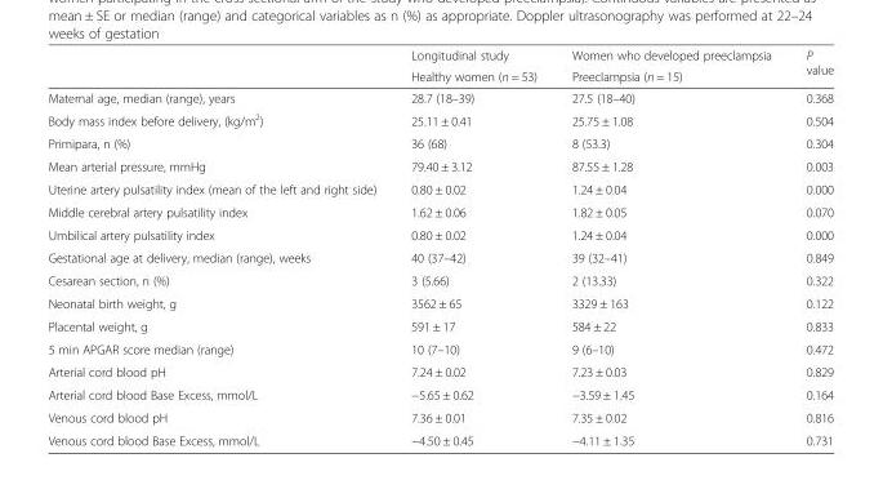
<table><thead><tr><td rowspan="2"></td><td rowspan="2">Longitudinal study Healthy women (n = 53)</td><td rowspan="2">Women who developed preeclampsia Preeclampsia (n = 15)</td><td rowspan="2">P value</td></tr><tr></tr></thead><tbody><tr><td>Maternal age, median (range), years</td><td>28.7 (18–39)</td><td>27.5 (18–40)</td><td>0.368</td></tr><tr><td>Body mass index before delivery, (kg/m<sup>2</sup>)</td><td>25.11 ± 0.41</td><td>25.75 ± 1.08</td><td>0.504</td></tr><tr><td>Primipara, n (%)</td><td>36 (68)</td><td>8 (53.3)</td><td>0.304</td></tr><tr><td>Mean arterial pressure, mmHg</td><td>79.40 ± 3.12</td><td>87.55 ± 1.28</td><td>0.003</td></tr><tr><td>Uterine artery pulsatility index (mean of the left and right side)</td><td>0.80 ± 0.02</td><td>1.24 ± 0.04</td><td>0.000</td></tr><tr><td>Middle cerebral artery pulsatility index</td><td>1.62 ± 0.06</td><td>1.82 ± 0.05</td><td>0.070</td></tr><tr><td>Umbilical artery pulsatility index</td><td>0.80 ± 0.02</td><td>1.24 ± 0.04</td><td>0.000</td></tr><tr><td>Gestational age at delivery, median (range), weeks</td><td>40 (37–42)</td><td>39 (32–41)</td><td>0.849</td></tr><tr><td>Cesarean section, n (%)</td><td>3 (5.66)</td><td>2 (13.33)</td><td>0.322</td></tr><tr><td>Neonatal birth weight, g</td><td>3562 ± 65</td><td>3329 ± 163</td><td>0.122</td></tr><tr><td>Placental weight, g</td><td>591 ± 17</td><td>584 ± 22</td><td>0.833</td></tr><tr><td>5 min APGAR score median (range)</td><td>10 (7–10)</td><td>9 (6–10)</td><td>0.472</td></tr><tr><td>Arterial cord blood pH</td><td>7.24 ± 0.02</td><td>7.23 ± 0.03</td><td>0.829</td></tr><tr><td>Arterial cord blood Base Excess, mmol/L</td><td>−5.65 ± 0.62</td><td>−3.59 ± 1.45</td><td>0.164</td></tr><tr><td>Venous cord blood pH</td><td>7.36 ± 0.01</td><td>7.35 ± 0.02</td><td>0.816</td></tr><tr><td>Venous cord blood Base Excess, mmol/L</td><td>−4.50 ± 0.45</td><td>−4.11 ± 1.35</td><td>0.731</td></tr></tbody></table>